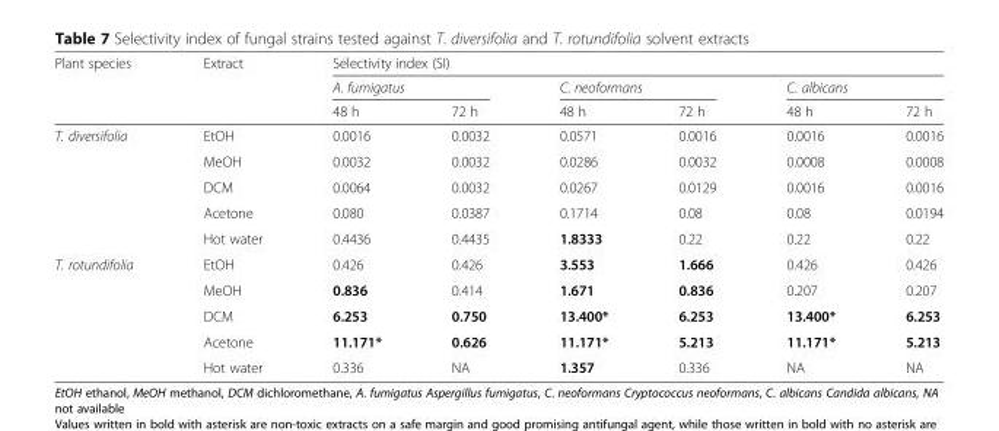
<table><thead><tr><td rowspan="3">Plant species</td><td rowspan="3">Extract</td><td colspan="6">Selectivity index (SI)</td></tr><tr><td colspan="2">A. fumigatus</td><td colspan="2">C. neoformans</td><td colspan="2">C. albicans</td></tr><tr><td>48 h</td><td>72 h</td><td>48 h</td><td>72 h</td><td>48 h</td><td>72 h</td></tr></thead><tbody><tr><td rowspan="5">T. diversifolia</td><td>EtOH</td><td>0.0016</td><td>0.0032</td><td>0.0571</td><td>0.0016</td><td>0.0016</td><td>0.0016</td></tr><tr><td>MeOH</td><td>0.0032</td><td>0.0032</td><td>0.0286</td><td>0.0032</td><td>0.0008</td><td>0.0008</td></tr><tr><td>DCM</td><td>0.0064</td><td>0.0032</td><td>0.0267</td><td>0.0129</td><td>0.0016</td><td>0.0016</td></tr><tr><td>Acetone</td><td>0.080</td><td>0.0387</td><td>0.1714</td><td>0.08</td><td>0.08</td><td>0.0194</td></tr><tr><td>Hot water</td><td>0.4436</td><td>0.4435</td><td>1.8333</td><td>0.22</td><td>0.22</td><td>0.22</td></tr><tr><td rowspan="5">T. rotundifolia</td><td>EtOH</td><td>0.426</td><td>0.426</td><td>3.553</td><td>1.666</td><td>0.426</td><td>0.426</td></tr><tr><td>MeOH</td><td>0.836</td><td>0.414</td><td>1.671</td><td>0.836</td><td>0.207</td><td>0.207</td></tr><tr><td>DCM</td><td>6.253</td><td>0.750</td><td>13.400*</td><td>6.253</td><td>13.400*</td><td>6.253</td></tr><tr><td>Acetone</td><td>11.171*</td><td>0.626</td><td>11.171*</td><td>5.213</td><td>11.171*</td><td>5.213</td></tr><tr><td>Hot water</td><td>0.336</td><td>NA</td><td>1.357</td><td>0.336</td><td>NA</td><td>NA</td></tr></tbody></table>